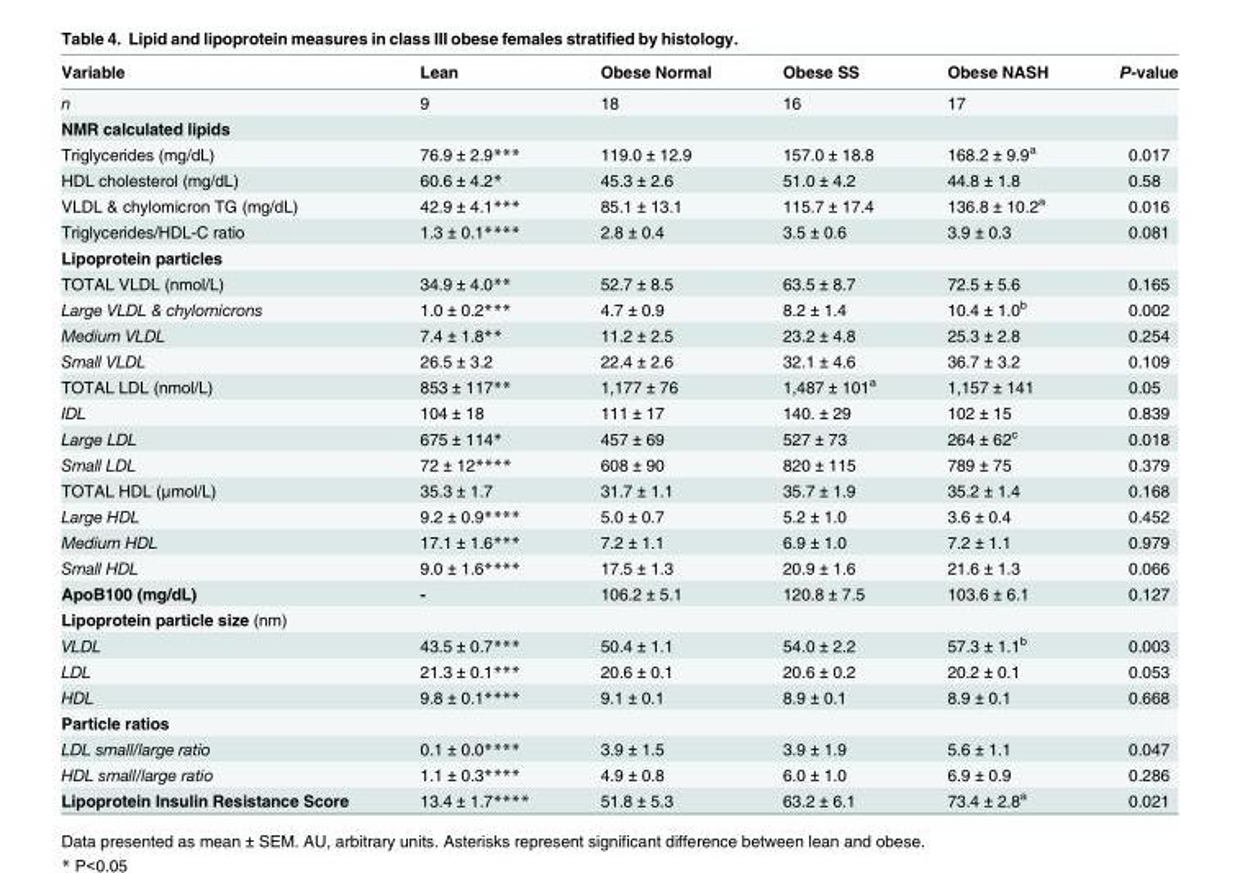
<table><thead><tr><td>Variable</td><td>Lean</td><td>Obese Normal</td><td>Obese SS</td><td>Obese NASH</td><td>P-value</td></tr></thead><tbody><tr><td>n</td><td>9</td><td>18</td><td>16</td><td>17</td><td></td></tr><tr><td colspan="6">NMR calculated lipids</td></tr><tr><td>Triglycerides (mg/dL)</td><td>76.9 ± 2.9***</td><td>119.0 ± 12.9</td><td>157.0 ± 18.8</td><td>168.2 ± 9.9<sup>a</sup></td><td>0.017</td></tr><tr><td>HDL cholesterol (mg/dL)</td><td>60.6 ± 4.2*</td><td>45.3 ± 2.6</td><td>51.0 ± 4.2</td><td>44.8 ± 1.8</td><td>0.58</td></tr><tr><td>VLDL &amp; chylomicron TG (mg/dL)</td><td>42.9 ± 4.1***</td><td>85.1 ± 13.1</td><td>115.7 ± 17.4</td><td>136.8 ± 10.2<sup>a</sup></td><td>0.016</td></tr><tr><td>Triglycerides/HDL-C ratio</td><td>1.3 ± 0.1****</td><td>2.8 ± 0.4</td><td>3.5 ± 0.6</td><td>3.9 ± 0.3</td><td>0.081</td></tr><tr><td colspan="6">Lipoprotein particles</td></tr><tr><td>TOTAL VLDL (nmol/L)</td><td>34.9 ± 4.0**</td><td>52.7 ± 8.5</td><td>63.5 ± 8.7</td><td>72.5 ± 5.6</td><td>0.165</td></tr><tr><td>Large VLDL &amp; chylomicrons</td><td>1.0 ± 0.2***</td><td>4.7 ± 0.9</td><td>8.2 ± 1.4</td><td>10.4 ± 1.0<sup>b</sup></td><td>0.002</td></tr><tr><td>Medium VLDL</td><td>7.4 ± 1.8**</td><td>11.2 ± 2.5</td><td>23.2 ± 4.8</td><td>25.3 ± 2.8</td><td>0.254</td></tr><tr><td>Small VLDL</td><td>26.5 ± 3.2</td><td>22.4 ± 2.6</td><td>32.1 ± 4.6</td><td>36.7 ± 3.2</td><td>0.109</td></tr><tr><td>TOTAL LDL (nmol/L)</td><td>853 ± 117**</td><td>1,177 ± 76</td><td>1,487 ± 101<sup>a</sup></td><td>1,157 ± 141</td><td>0.05</td></tr><tr><td>IDL</td><td>104 ± 18</td><td>111 ± 17</td><td>140. ± 29</td><td>102 ± 15</td><td>0.839</td></tr><tr><td>Large LDL</td><td>675 ± 114*</td><td>457 ± 69</td><td>527 ± 73</td><td>264 ± 62<sup>c</sup></td><td>0.018</td></tr><tr><td>Small LDL</td><td>72 ± 12****</td><td>608 ± 90</td><td>820 ± 115</td><td>789 ± 75</td><td>0.379</td></tr><tr><td>TOTAL HDL (μmol/L)</td><td>35.3 ± 1.7</td><td>31.7 ± 1.1</td><td>35.7 ± 1.9</td><td>35.2 ± 1.4</td><td>0.168</td></tr><tr><td>Large HDL</td><td>9.2 ± 0.9****</td><td>5.0 ± 0.7</td><td>5.2 ± 1.0</td><td>3.6 ± 0.4</td><td>0.452</td></tr><tr><td>Medium HDL</td><td>17.1 ± 1.6***</td><td>7.2 ± 1.1</td><td>6.9 ± 1.0</td><td>7.2 ± 1.1</td><td>0.979</td></tr><tr><td>Small HDL</td><td>9.0 ± 1.6****</td><td>17.5 ± 1.3</td><td>20.9 ± 1.6</td><td>21.6 ± 1.3</td><td>0.066</td></tr><tr><td>ApoB100 (mg/dL)</td><td>-</td><td>106.2 ± 5.1</td><td>120.8 ± 7.5</td><td>103.6 ± 6.1</td><td>0.127</td></tr><tr><td colspan="6">Lipoprotein particle size (nm)</td></tr><tr><td>VLDL</td><td>43.5 ± 0.7***</td><td>50.4 ± 1.1</td><td>54.0 ± 2.2</td><td>57.3 ± 1.1<sup>b</sup></td><td>0.003</td></tr><tr><td>LDL</td><td>21.3 ± 0.1***</td><td>20.6 ± 0.1</td><td>20.6 ± 0.2</td><td>20.2 ± 0.1</td><td>0.053</td></tr><tr><td>HDL</td><td>9.8 ± 0.1****</td><td>9.1 ± 0.1</td><td>8.9 ± 0.1</td><td>8.9 ± 0.1</td><td>0.668</td></tr><tr><td colspan="6">Particle ratios</td></tr><tr><td>LDL small/large ratio</td><td>0.1 ± 0.0****</td><td>3.9 ± 1.5</td><td>3.9 ± 1.9</td><td>5.6 ± 1.1</td><td>0.047</td></tr><tr><td>HDL small/large ratio</td><td>1.1 ± 0.3****</td><td>4.9 ± 0.8</td><td>6.0 ± 1.0</td><td>6.9 ± 0.9</td><td>0.286</td></tr><tr><td>Lipoprotein Insulin Resistance Score</td><td>13.4 ± 1.7****</td><td>51.8 ± 5.3</td><td>63.2 ± 6.1</td><td>73.4 ± 2.8<sup>a</sup></td><td>0.021</td></tr></tbody></table>